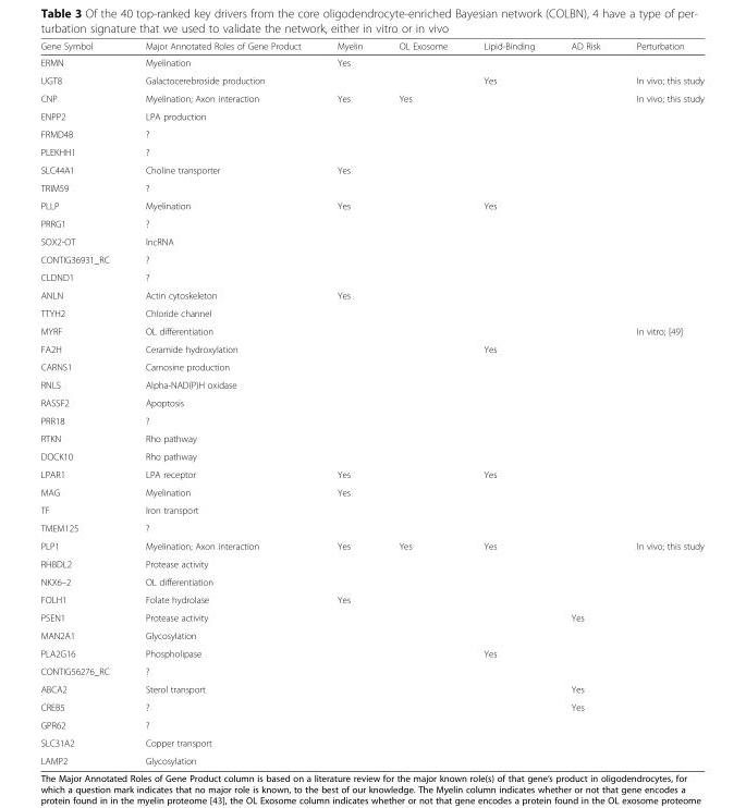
<table><thead><tr><td>Gene Symbol</td><td>Major Annotated Roles of Gene Product</td><td>Myelin</td><td>OL Exosome</td><td>Lipid-Binding</td><td>AD Risk</td><td>Perturbation</td></tr></thead><tbody><tr><td>ERMN</td><td>Myelination</td><td>Yes</td><td></td><td></td><td></td><td></td></tr><tr><td>UGT8</td><td>Galactocerebroside production</td><td></td><td></td><td>Yes</td><td></td><td>In vivo; this study</td></tr><tr><td>CNP</td><td>Myelination; Axon interaction</td><td>Yes</td><td>Yes</td><td></td><td></td><td>In vivo; this study</td></tr><tr><td>ENPP2</td><td>LPA production</td><td></td><td></td><td></td><td></td><td rowspan="12"></td></tr><tr><td>FRMD4B</td><td>?</td><td></td><td></td><td></td><td></td></tr><tr><td>PLEKHH1</td><td>?</td><td></td><td></td><td></td><td></td></tr><tr><td>SLC44A1</td><td>Choline transporter</td><td>Yes</td><td></td><td></td><td></td></tr><tr><td>TRIM59</td><td>?</td><td></td><td></td><td></td><td></td></tr><tr><td>PLLP</td><td>Myelination</td><td>Yes</td><td></td><td>Yes</td><td></td></tr><tr><td>PRRG1</td><td>?</td><td></td><td></td><td></td><td></td></tr><tr><td>SOX2-OT</td><td>lncRNA</td><td></td><td></td><td></td><td></td></tr><tr><td>CONTIG36931_RC</td><td>?</td><td></td><td></td><td></td><td></td></tr><tr><td>CLDND1</td><td>?</td><td></td><td></td><td></td><td></td></tr><tr><td>ANLN</td><td>Actin cytoskeleton</td><td>Yes</td><td></td><td></td><td></td></tr><tr><td>TTYH2</td><td>Chloride channel</td><td></td><td></td><td></td><td></td></tr><tr><td>MYRF</td><td>OL differentiation</td><td></td><td></td><td></td><td></td><td>In vitro; [49]</td></tr><tr><td>FA2H</td><td>Ceramide hydroxylation</td><td></td><td></td><td>Yes</td><td></td><td rowspan="11"></td></tr><tr><td>CARNS1</td><td>Carnosine production</td><td></td><td></td><td></td><td></td></tr><tr><td>RNLS</td><td>Alpha-NAD(P)H oxidase</td><td></td><td></td><td></td><td></td></tr><tr><td>RASSF2</td><td>Apoptosis</td><td></td><td></td><td></td><td></td></tr><tr><td>PRR18</td><td>?</td><td></td><td></td><td></td><td></td></tr><tr><td>RTKN</td><td>Rho pathway</td><td></td><td></td><td></td><td></td></tr><tr><td>DOCK10</td><td>Rho pathway</td><td></td><td></td><td></td><td></td></tr><tr><td>LPAR1</td><td>LPA receptor</td><td>Yes</td><td></td><td>Yes</td><td></td></tr><tr><td>MAG</td><td>Myelination</td><td>Yes</td><td></td><td></td><td></td></tr><tr><td>TF</td><td>Iron transport</td><td></td><td></td><td></td><td></td></tr><tr><td>TMEM125</td><td>?</td><td></td><td></td><td></td><td></td></tr><tr><td>PLP1</td><td>Myelination; Axon interaction</td><td>Yes</td><td>Yes</td><td>Yes</td><td></td><td>In vivo; this study</td></tr><tr><td>RHBDL2</td><td>Protease activity</td><td></td><td></td><td></td><td></td><td rowspan="12"></td></tr><tr><td>NKX6–2</td><td>OL differentiation</td><td></td><td></td><td></td><td></td></tr><tr><td>FOLH1</td><td>Folate hydrolase</td><td>Yes</td><td></td><td></td><td></td></tr><tr><td>PSEN1</td><td>Protease activity</td><td></td><td></td><td></td><td>Yes</td></tr><tr><td>MAN2A1</td><td>Glycosylation</td><td></td><td></td><td></td><td></td></tr><tr><td>PLA2G16</td><td>Phospholipase</td><td></td><td></td><td>Yes</td><td></td></tr><tr><td>CONTIG56276_RC</td><td>?</td><td></td><td></td><td></td><td></td></tr><tr><td>ABCA2</td><td>Sterol transport</td><td></td><td></td><td></td><td>Yes</td></tr><tr><td>CREB5</td><td>?</td><td></td><td></td><td></td><td>Yes</td></tr><tr><td>GPR62</td><td>?</td><td></td><td></td><td></td><td></td></tr><tr><td>SLC31A2</td><td>Copper transport</td><td></td><td></td><td></td><td></td></tr><tr><td>LAMP2</td><td>Glycosylation</td><td></td><td></td><td></td><td></td></tr></tbody></table>